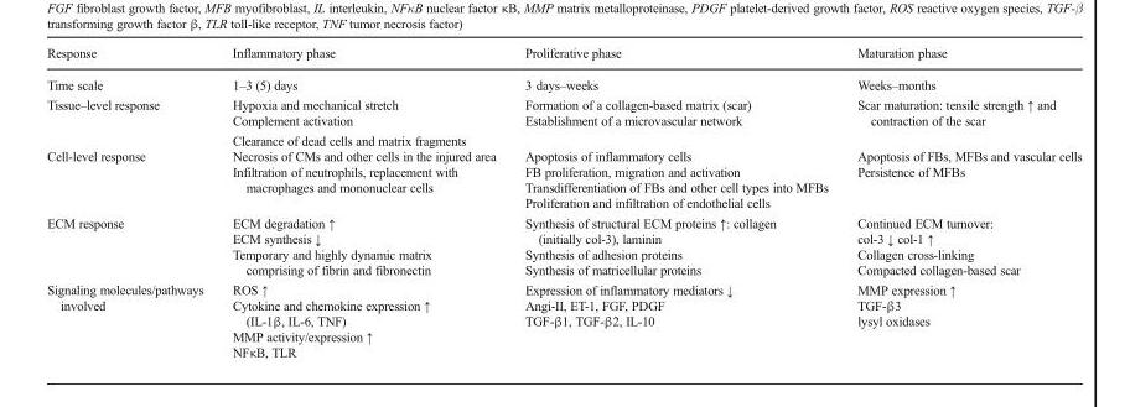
<table><thead><tr><td>Response</td><td>Inflammatory phase</td><td>Proliferative phase</td><td>Maturation phase</td></tr></thead><tbody><tr><td>Time scale</td><td>1–3 (5) days</td><td>3 days–weeks</td><td>Weeks–months</td></tr><tr><td>Tissue–level response</td><td>Hypoxia and mechanical stretch Complement activation Clearance of dead cells and matrix fragments</td><td>Formation of a collagen-based matrix (scar) Establishment of a microvascular network</td><td>Scar maturation: tensile strength ↑ and contraction of the scar</td></tr><tr><td>Cell-level response</td><td>Necrosis of CMs and other cells in the injured area Infiltration of neutrophils, replacement with macrophages and mononuclear cells</td><td>Apoptosis of inflammatory cells FB proliferation, migration and activation Transdifferentiation of FBs and other cell types into MFBs Proliferation and infiltration of endothelial cells</td><td>Apoptosis of FBs, MFBs and vascular cells Persistence of MFBs</td></tr><tr><td>ECM response</td><td>ECM degradation ↑ ECM synthesis ↓ Temporary and highly dynamic matrix comprising of fibrin and fibronectin</td><td>Synthesis of structural ECM proteins ↑: collagen (initially col-3), laminin Synthesis of adhesion proteins Synthesis of matricellular proteins</td><td>Continued ECM turnover: col-3 ↓ col-1 ↑ Collagen cross-linking Compacted collagen-based scar</td></tr><tr><td>Signaling molecules/pathways involved</td><td>ROS ↑ Cytokine and chemokine expression ↑ (IL-1β, IL-6, TNF) MMP activity/expression ↑ NFκB, TLR</td><td>Expression of inflammatory mediators ↓ Angi-II, ET-1, FGF, PDGF TGF-β1, TGF-β2, IL-10</td><td>MMP expression ↑ TGF-β3 lysyl oxidases</td></tr></tbody></table>